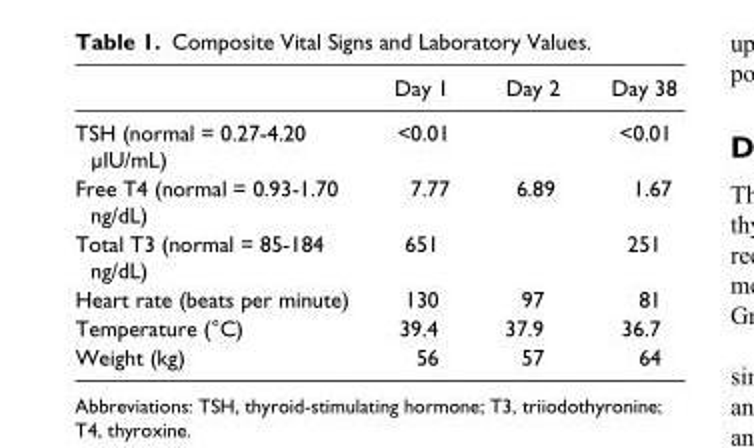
<table><thead><tr><td></td><td>Day 1</td><td>Day 2</td><td>Day 38</td></tr></thead><tbody><tr><td>TSH (normal = 0.27-4.20 µIU/mL)</td><td>&lt;0.01</td><td></td><td>&lt;0.01</td></tr><tr><td>Free T4 (normal = 0.93-1.70 ng/dL)</td><td>7.77</td><td>6.89</td><td>1.67</td></tr><tr><td>Total T3 (normal = 85-184 ng/dL)</td><td>651</td><td></td><td>251</td></tr><tr><td>Heart rate (beats per minute)</td><td>130</td><td>97</td><td>81</td></tr><tr><td>Temperature (°C)</td><td>39.4</td><td>37.9</td><td>36.7</td></tr><tr><td>Weight (kg)</td><td>56</td><td>57</td><td>64</td></tr></tbody></table>